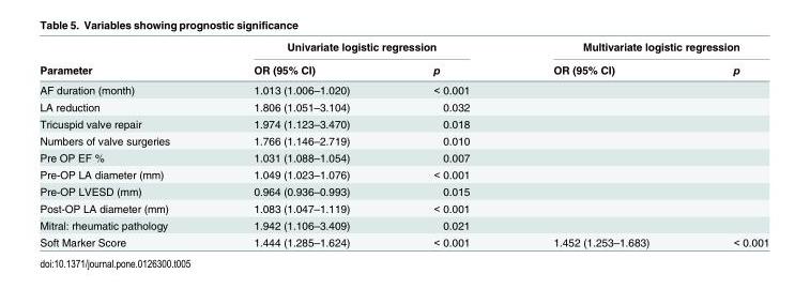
<table><thead><tr><td rowspan="2">Parameter</td><td colspan="2">Univariate logistic regression</td><td colspan="2">Multivariate logistic regression</td></tr><tr><td>OR (95% CI)</td><td>p</td><td>OR (95% CI)</td><td>p</td></tr></thead><tbody><tr><td>AF duration (month)</td><td>1.013 (1.006–1.020)</td><td>&lt; 0.001</td><td></td><td></td></tr><tr><td>LA reduction</td><td>1.806 (1.051–3.104)</td><td>0.032</td><td></td><td></td></tr><tr><td>Tricuspid valve repair</td><td>1.974 (1.123–3.470)</td><td>0.018</td><td></td><td></td></tr><tr><td>Numbers of valve surgeries</td><td>1.766 (1.146–2.719)</td><td>0.010</td><td></td><td></td></tr><tr><td>Pre OP EF %</td><td>1.031 (1.088–1.054)</td><td>0.007</td><td></td><td></td></tr><tr><td>Pre-OP LA diameter (mm)</td><td>1.049 (1.023–1.076)</td><td>&lt; 0.001</td><td></td><td></td></tr><tr><td>Pre-OP LVESD (mm)</td><td>0.964 (0.936–0.993)</td><td>0.015</td><td></td><td></td></tr><tr><td>Post-OP LA diameter (mm)</td><td>1.083 (1.047–1.119)</td><td>&lt; 0.001</td><td></td><td></td></tr><tr><td>Mitral: rheumatic pathology</td><td>1.942 (1.106–3.409)</td><td>0.021</td><td></td><td></td></tr><tr><td>Soft Marker Score</td><td>1.444 (1.285–1.624)</td><td>&lt; 0.001</td><td>1.452 (1.253–1.683)</td><td>&lt; 0.001</td></tr></tbody></table>